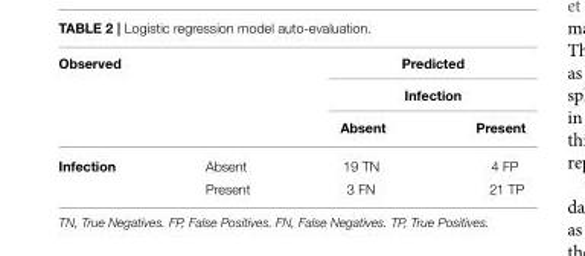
<table><thead><tr><td colspan="2">Observed</td><td rowspan="2" colspan="2">Predicted Infection</td></tr><tr><td rowspan="2"></td><td rowspan="2"></td></tr><tr><td>Absent</td><td>Present</td></tr></thead><tbody><tr><td rowspan="2">Infection</td><td>Absent</td><td>19 TN</td><td>4 FP</td></tr><tr><td>Present</td><td>3 FN</td><td>21 TP</td></tr></tbody></table>